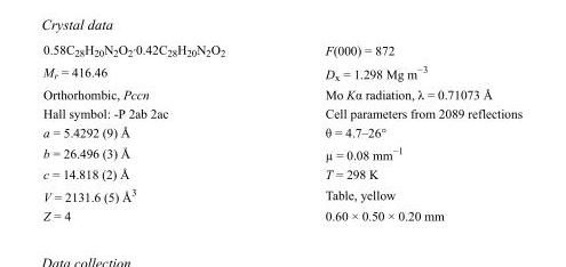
<table><tbody><tr><td>0.58C<sub>28</sub>H<sub>20</sub>N<sub>2</sub>O<sub>2</sub>·0.42C<sub>28</sub>H<sub>20</sub>N<sub>2</sub>O<sub>2</sub></td><td>F(000) = 872</td></tr><tr><td>M<sub>r</sub> = 416.46</td><td>D<sub>x</sub> = 1.298 Mg m<sup>−3</sup></td></tr><tr><td>Orthorhombic, Pccn</td><td>Mo Kα radiation, λ = 0.71073 Å</td></tr><tr><td>Hall symbol: -P 2ab 2ac</td><td>Cell parameters from 2089 reflections</td></tr><tr><td>a = 5.4292 (9) Å</td><td>θ = 4.7–26°</td></tr><tr><td>b = 26.496 (3) Å</td><td>µ = 0.08 mm<sup>−1</sup></td></tr><tr><td>c = 14.818 (2) Å</td><td>T = 298 K</td></tr><tr><td>V = 2131.6 (5) Å<sup>3</sup></td><td>Table, yellow</td></tr><tr><td>Z = 4</td><td>0.60 × 0.50 × 0.20 mm</td></tr></tbody></table>